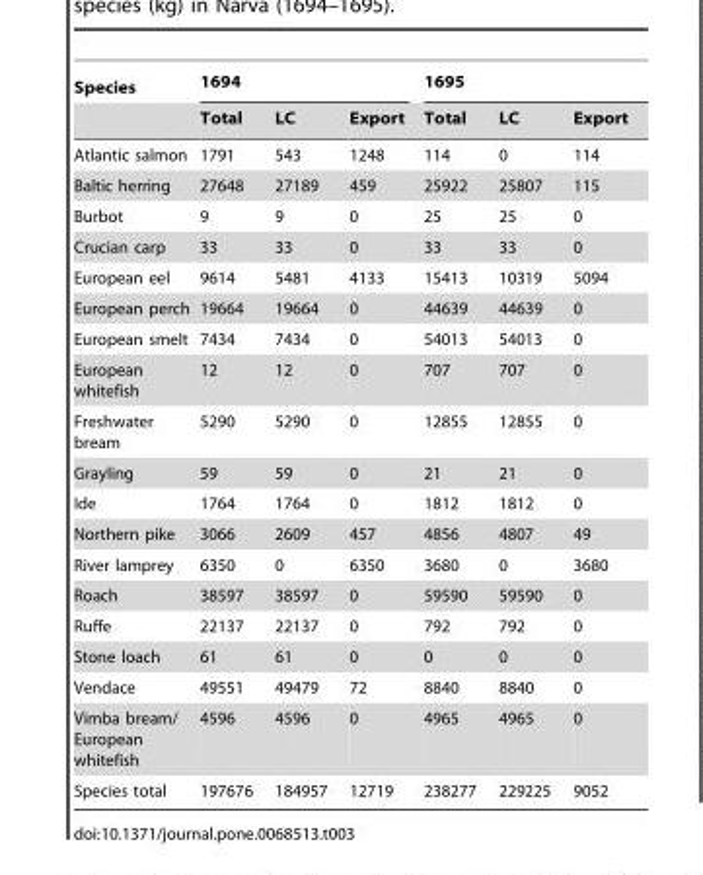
<table><thead><tr><td rowspan="2">Species</td><td colspan="3">1694</td><td colspan="3">1695</td></tr><tr><td>Total</td><td>LC</td><td>Export</td><td>Total</td><td>LC</td><td>Export</td></tr></thead><tbody><tr><td>Atlantic salmon</td><td>1791</td><td>543</td><td>1248</td><td>114</td><td>0</td><td>114</td></tr><tr><td>Baltic herring</td><td>27648</td><td>27189</td><td>459</td><td>25922</td><td>25807</td><td>115</td></tr><tr><td>Burbot</td><td>9</td><td>9</td><td>0</td><td>25</td><td>25</td><td>0</td></tr><tr><td>Crucian carp</td><td>33</td><td>33</td><td>0</td><td>33</td><td>33</td><td>0</td></tr><tr><td>European eel</td><td>9614</td><td>5481</td><td>4133</td><td>15413</td><td>10319</td><td>5094</td></tr><tr><td>European perch</td><td>19664</td><td>19664</td><td>0</td><td>44639</td><td>44639</td><td>0</td></tr><tr><td>European smelt</td><td>7434</td><td>7434</td><td>0</td><td>54013</td><td>54013</td><td>0</td></tr><tr><td>European whitefish</td><td>12</td><td>12</td><td>0</td><td>707</td><td>707</td><td>0</td></tr><tr><td>Freshwater bream</td><td>5290</td><td>5290</td><td>0</td><td>12855</td><td>12855</td><td>0</td></tr><tr><td>Grayling</td><td>59</td><td>59</td><td>0</td><td>21</td><td>21</td><td>0</td></tr><tr><td>Ide</td><td>1764</td><td>1764</td><td>0</td><td>1812</td><td>1812</td><td>0</td></tr><tr><td>Northern pike</td><td>3066</td><td>2609</td><td>457</td><td>4856</td><td>4807</td><td>49</td></tr><tr><td>River lamprey</td><td>6350</td><td>0</td><td>6350</td><td>3680</td><td>0</td><td>3680</td></tr><tr><td>Roach</td><td>38597</td><td>38597</td><td>0</td><td>59590</td><td>59590</td><td>0</td></tr><tr><td>Ruffe</td><td>22137</td><td>22137</td><td>0</td><td>792</td><td>792</td><td>0</td></tr><tr><td>Stone loach</td><td>61</td><td>61</td><td>0</td><td>0</td><td>0</td><td>0</td></tr><tr><td>Vendace</td><td>49551</td><td>49479</td><td>72</td><td>8840</td><td>8840</td><td>0</td></tr><tr><td>Vimba bream/ European whitefish</td><td>4596</td><td>4596</td><td>0</td><td>4965</td><td>4965</td><td>0</td></tr><tr><td>Species total</td><td>197676</td><td>184957</td><td>12719</td><td>238277</td><td>229225</td><td>9052</td></tr></tbody></table>